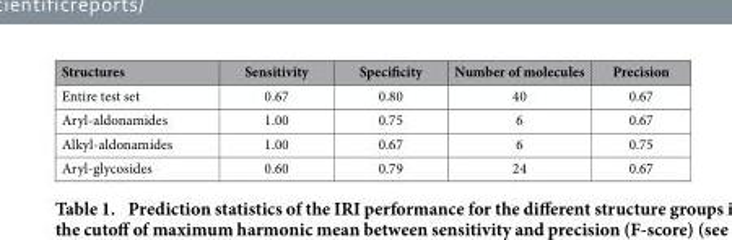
<table><thead><tr><td>Structures</td><td>Sensitivity</td><td>Specificity</td><td>Number of molecules</td><td>Precision</td></tr></thead><tbody><tr><td>Entire test set</td><td>0.67</td><td>0.80</td><td>40</td><td>0.67</td></tr><tr><td>Aryl-aldonamides</td><td>1.00</td><td>0.75</td><td>6</td><td>0.67</td></tr><tr><td>Alkyl-aldonamides</td><td>1.00</td><td>0.67</td><td>6</td><td>0.75</td></tr><tr><td>Aryl-glycosides</td><td>0.60</td><td>0.79</td><td>24</td><td>0.67</td></tr></tbody></table>